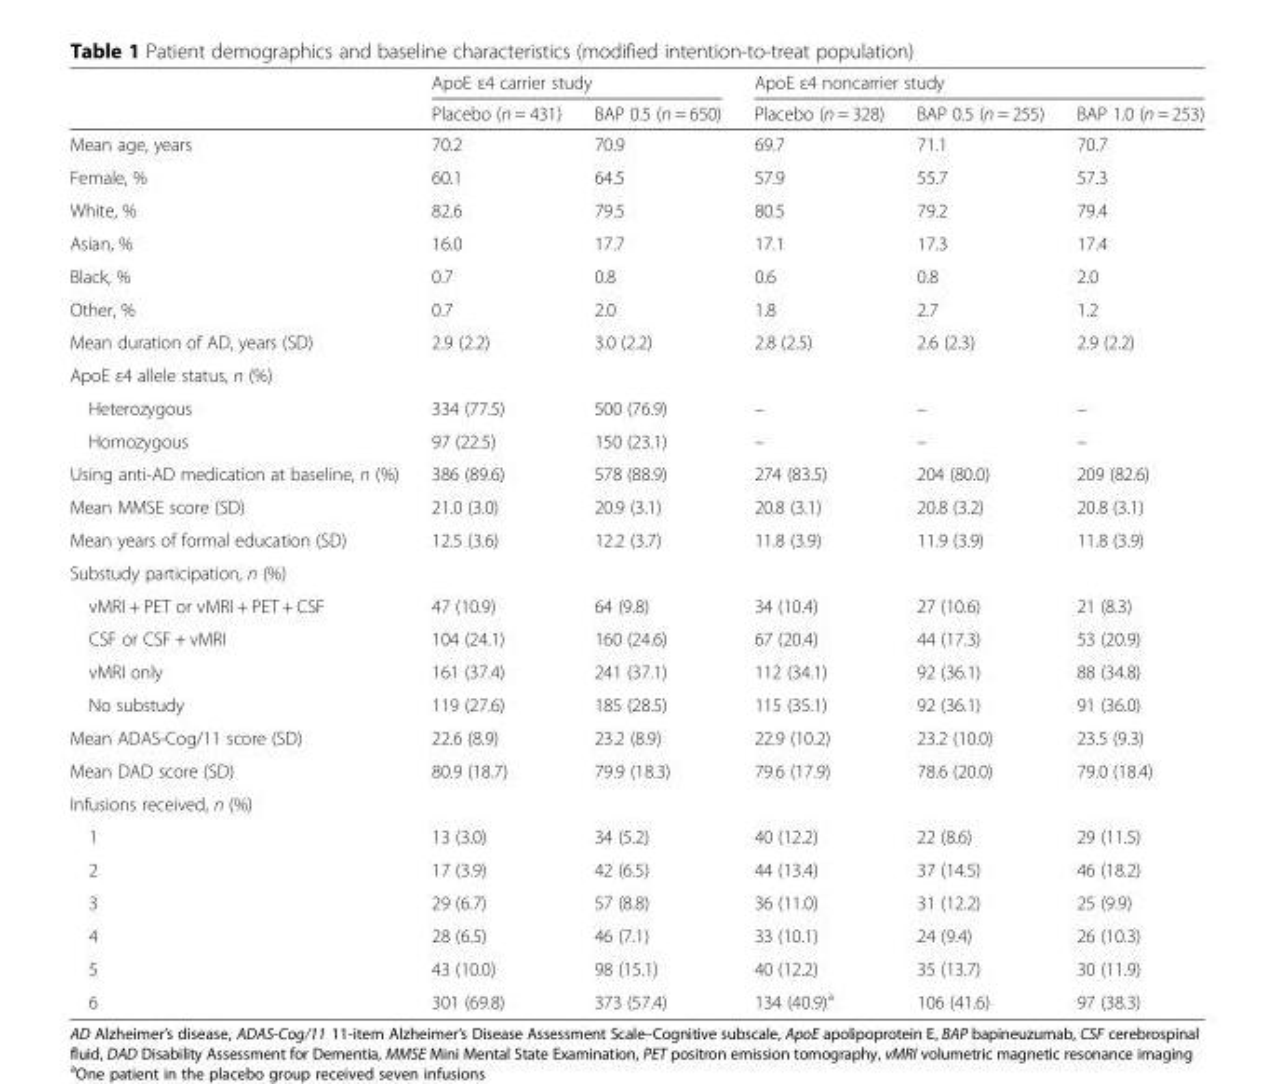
<table><thead><tr><td rowspan="2"></td><td colspan="2">ApoE ε4 carrier study</td><td colspan="3">ApoE ε4 noncarrier study</td></tr><tr><td>Placebo (n = 431)</td><td>BAP 0.5 (n = 650)</td><td>Placebo (n = 328)</td><td>BAP 0.5 (n = 255)</td><td>BAP 1.0 (n = 253)</td></tr></thead><tbody><tr><td>Mean age, years</td><td>70.2</td><td>70.9</td><td>69.7</td><td>71.1</td><td>70.7</td></tr><tr><td>Female, %</td><td>60.1</td><td>64.5</td><td>57.9</td><td>55.7</td><td>57.3</td></tr><tr><td>White, %</td><td>82.6</td><td>79.5</td><td>80.5</td><td>79.2</td><td>79.4</td></tr><tr><td>Asian, %</td><td>16.0</td><td>17.7</td><td>17.1</td><td>17.3</td><td>17.4</td></tr><tr><td>Black, %</td><td>0.7</td><td>0.8</td><td>0.6</td><td>0.8</td><td>2.0</td></tr><tr><td>Other, %</td><td>0.7</td><td>2.0</td><td>1.8</td><td>2.7</td><td>1.2</td></tr><tr><td>Mean duration of AD, years (SD)</td><td>2.9 (2.2)</td><td>3.0 (2.2)</td><td>2.8 (2.5)</td><td>2.6 (2.3)</td><td>2.9 (2.2)</td></tr><tr><td colspan="6">ApoE ε4 allele status, n (%)</td></tr><tr><td>Heterozygous</td><td>334 (77.5)</td><td>500 (76.9)</td><td>–</td><td>–</td><td>–</td></tr><tr><td>Homozygous</td><td>97 (22.5)</td><td>150 (23.1)</td><td>–</td><td>–</td><td>–</td></tr><tr><td>Using anti-AD medication at baseline, n (%)</td><td>386 (89.6)</td><td>578 (88.9)</td><td>274 (83.5)</td><td>204 (80.0)</td><td>209 (82.6)</td></tr><tr><td>Mean MMSE score (SD)</td><td>21.0 (3.0)</td><td>20.9 (3.1)</td><td>20.8 (3.1)</td><td>20.8 (3.2)</td><td>20.8 (3.1)</td></tr><tr><td>Mean years of formal education (SD)</td><td>12.5 (3.6)</td><td>12.2 (3.7)</td><td>11.8 (3.9)</td><td>11.9 (3.9)</td><td>11.8 (3.9)</td></tr><tr><td colspan="6">Substudy participation, n (%)</td></tr><tr><td>vMRI + PET or vMRI + PET + CSF</td><td>47 (10.9)</td><td>64 (9.8)</td><td>34 (10.4)</td><td>27 (10.6)</td><td>21 (8.3)</td></tr><tr><td>CSF or CSF + vMRI</td><td>104 (24.1)</td><td>160 (24.6)</td><td>67 (20.4)</td><td>44 (17.3)</td><td>53 (20.9)</td></tr><tr><td>vMRI only</td><td>161 (37.4)</td><td>241 (37.1)</td><td>112 (34.1)</td><td>92 (36.1)</td><td>88 (34.8)</td></tr><tr><td>No substudy</td><td>119 (27.6)</td><td>185 (28.5)</td><td>115 (35.1)</td><td>92 (36.1)</td><td>91 (36.0)</td></tr><tr><td>Mean ADAS-Cog/11 score (SD)</td><td>22.6 (8.9)</td><td>23.2 (8.9)</td><td>22.9 (10.2)</td><td>23.2 (10.0)</td><td>23.5 (9.3)</td></tr><tr><td>Mean DAD score (SD)</td><td>80.9 (18.7)</td><td>79.9 (18.3)</td><td>79.6 (17.9)</td><td>78.6 (20.0)</td><td>79.0 (18.4)</td></tr><tr><td colspan="6">Infusions received, n (%)</td></tr><tr><td>1</td><td>13 (3.0)</td><td>34 (5.2)</td><td>40 (12.2)</td><td>22 (8.6)</td><td>29 (11.5)</td></tr><tr><td>2</td><td>17 (3.9)</td><td>42 (6.5)</td><td>44 (13.4)</td><td>37 (14.5)</td><td>46 (18.2)</td></tr><tr><td>3</td><td>29 (6.7)</td><td>57 (8.8)</td><td>36 (11.0)</td><td>31 (12.2)</td><td>25 (9.9)</td></tr><tr><td>4</td><td>28 (6.5)</td><td>46 (7.1)</td><td>33 (10.1)</td><td>24 (9.4)</td><td>26 (10.3)</td></tr><tr><td>5</td><td>43 (10.0)</td><td>98 (15.1)</td><td>40 (12.2)</td><td>35 (13.7)</td><td>30 (11.9)</td></tr><tr><td>6</td><td>301 (69.8)</td><td>373 (57.4)</td><td>134 (40.9)<sup>a</sup></td><td>106 (41.6)</td><td>97 (38.3)</td></tr></tbody></table>